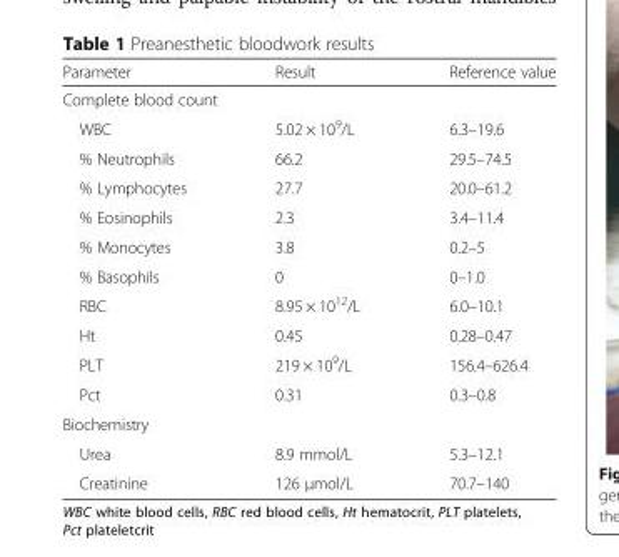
<table><thead><tr><td>Parameter</td><td>Result</td><td>Reference value</td></tr></thead><tbody><tr><td colspan="3">Complete blood count</td></tr><tr><td>WBC</td><td>5.02 × 10<sup>9</sup>/L</td><td>6.3–19.6</td></tr><tr><td>% Neutrophils</td><td>66.2</td><td>29.5–74.5</td></tr><tr><td>% Lymphocytes</td><td>27.7</td><td>20.0–61.2</td></tr><tr><td>% Eosinophils</td><td>2.3</td><td>3.4–11.4</td></tr><tr><td>% Monocytes</td><td>3.8</td><td>0.2–5</td></tr><tr><td>% Basophils</td><td>0</td><td>0–1.0</td></tr><tr><td>RBC</td><td>8.95 × 10<sup>12</sup>/L</td><td>6.0–10.1</td></tr><tr><td>Ht</td><td>0.45</td><td>0.28–0.47</td></tr><tr><td>PLT</td><td>219 × 10<sup>9</sup>/L</td><td>156.4–626.4</td></tr><tr><td>Pct</td><td>0.31</td><td>0.3–0.8</td></tr><tr><td colspan="3">Biochemistry</td></tr><tr><td>Urea</td><td>8.9 mmol/L</td><td>5.3–12.1</td></tr><tr><td>Creatinine</td><td>126 μmol/L</td><td>70.7–140</td></tr></tbody></table>